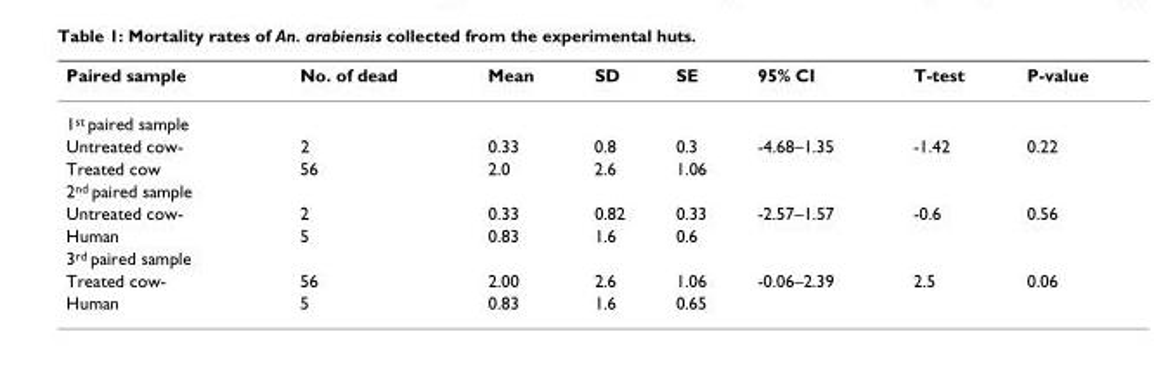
<table><thead><tr><td>Paired sample</td><td>No. of dead</td><td>Mean</td><td>SD</td><td>SE</td><td>95% CI</td><td>T-test</td><td>P-value</td></tr></thead><tbody><tr><td colspan="8">1<sup>st</sup> paired sample</td></tr><tr><td>Untreated cow-</td><td>2</td><td>0.33</td><td>0.8</td><td>0.3</td><td>-4.68–1.35</td><td>-1.42</td><td>0.22</td></tr><tr><td>Treated cow</td><td>56</td><td>2.0</td><td>2.6</td><td>1.06</td><td></td><td></td><td></td></tr><tr><td colspan="8">2<sup>nd</sup> paired sample</td></tr><tr><td>Untreated cow-</td><td>2</td><td>0.33</td><td>0.82</td><td>0.33</td><td>-2.57–1.57</td><td>-0.6</td><td>0.56</td></tr><tr><td>Human</td><td>5</td><td>0.83</td><td>1.6</td><td>0.6</td><td></td><td></td><td></td></tr><tr><td colspan="8">3<sup>rd</sup> paired sample</td></tr><tr><td>Treated cow-</td><td>56</td><td>2.00</td><td>2.6</td><td>1.06</td><td>-0.06–2.39</td><td>2.5</td><td>0.06</td></tr><tr><td>Human</td><td>5</td><td>0.83</td><td>1.6</td><td>0.65</td><td></td><td></td><td></td></tr></tbody></table>